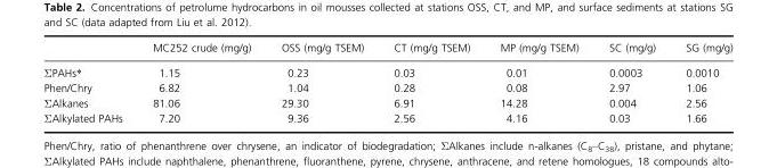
<table><thead><tr><td></td><td>MC252 crude (mg/g)</td><td>OSS (mg/g TSEM)</td><td>CT (mg/g TSEM)</td><td>MP (mg/g TSEM)</td><td>SC (mg/g)</td><td>SG (mg/g)</td></tr></thead><tbody><tr><td>ΣPAHs*</td><td>1.15</td><td>0.23</td><td>0.03</td><td>0.01</td><td>0.0003</td><td>0.0010</td></tr><tr><td>Phen/Chry</td><td>6.82</td><td>1.04</td><td>0.28</td><td>0.08</td><td>2.97</td><td>1.06</td></tr><tr><td>ΣAlkanes</td><td>81.06</td><td>29.30</td><td>6.91</td><td>14.28</td><td>0.004</td><td>2.56</td></tr><tr><td>ΣAlkylated PAHs</td><td>7.20</td><td>9.36</td><td>2.56</td><td>4.16</td><td>0.03</td><td>1.66</td></tr></tbody></table>